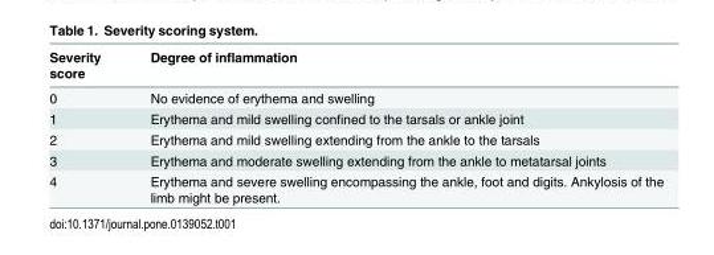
<table><thead><tr><td>Severity score</td><td>Degree of inflammation</td></tr></thead><tbody><tr><td>0</td><td>No evidence of erythema and swelling</td></tr><tr><td>1</td><td>Erythema and mild swelling confined to the tarsals or ankle joint</td></tr><tr><td>2</td><td>Erythema and mild swelling extending from the ankle to the tarsals</td></tr><tr><td>3</td><td>Erythema and moderate swelling extending from the ankle to metatarsal joints</td></tr><tr><td>4</td><td>Erythema and severe swelling encompassing the ankle, foot and digits. Ankylosis of the limb might be present.</td></tr></tbody></table>